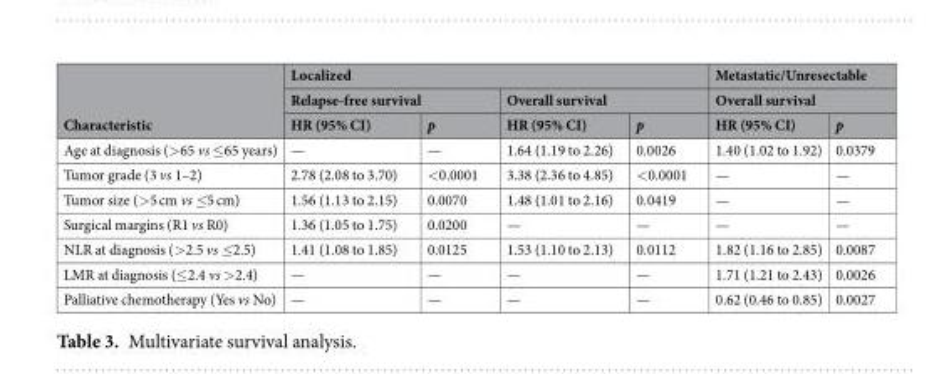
<table><thead><tr><td rowspan="3">Characteristic</td><td colspan="4">Localized</td><td rowspan="2" colspan="2">Metastatic/Unresectable Overall survival</td></tr><tr><td colspan="2">Relapse-free survival</td><td colspan="2">Overall survival</td></tr><tr><td>HR (95% CI)</td><td>p</td><td>HR (95% CI)</td><td>p</td><td>HR (95% CI)</td><td>p</td></tr></thead><tbody><tr><td>Age at diagnosis (&gt;65 vs ≤65 years)</td><td>—</td><td>—</td><td>1.64 (1.19 to 2.26)</td><td>0.0026</td><td>1.40 (1.02 to 1.92)</td><td>0.0379</td></tr><tr><td>Tumor grade (3 vs 1–2)</td><td>2.78 (2.08 to 3.70)</td><td>&lt;0.0001</td><td>3.38 (2.36 to 4.85)</td><td>&lt;0.0001</td><td>—</td><td>—</td></tr><tr><td>Tumor size (&gt;5 cm vs ≤5 cm)</td><td>1.56 (1.13 to 2.15)</td><td>0.0070</td><td>1.48 (1.01 to 2.16)</td><td>0.0419</td><td>—</td><td>—</td></tr><tr><td>Surgical margins (R1 vs R0)</td><td>1.36 (1.05 to 1.75)</td><td>0.0200</td><td>—</td><td>—</td><td>—</td><td>—</td></tr><tr><td>NLR at diagnosis (&gt;2.5 vs ≤2.5)</td><td>1.41 (1.08 to 1.85)</td><td>0.0125</td><td>1.53 (1.10 to 2.13)</td><td>0.0112</td><td>1.82 (1.16 to 2.85)</td><td>0.0087</td></tr><tr><td>LMR at diagnosis (≤2.4 vs &gt;2.4)</td><td>—</td><td>—</td><td>—</td><td>—</td><td>1.71 (1.21 to 2.43)</td><td>0.0026</td></tr><tr><td>Palliative chemotherapy (Yes vs No)</td><td>—</td><td>—</td><td>—</td><td>—</td><td>0.62 (0.46 to 0.85)</td><td>0.0027</td></tr></tbody></table>